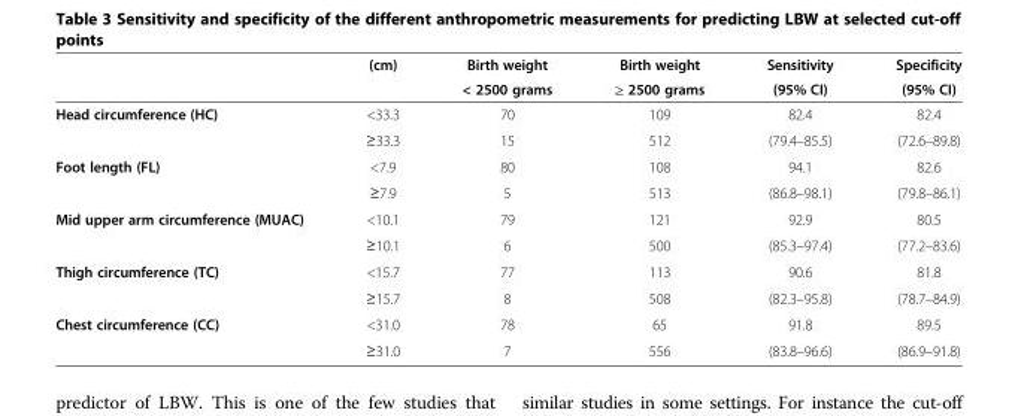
<table><thead><tr><td rowspan="2"></td><td rowspan="2">(cm)</td><td rowspan="2">Birth weight &lt; 2500 grams</td><td rowspan="2">Birth weight ≥ 2500 grams</td><td rowspan="2">Sensitivity (95% CI)</td><td rowspan="2">Specificity (95% CI)</td></tr><tr></tr></thead><tbody><tr><td rowspan="2">Head circumference (HC)</td><td>&lt;33.3</td><td>70</td><td>109</td><td>82.4</td><td>82.4</td></tr><tr><td>≥33.3</td><td>15</td><td>512</td><td>(79.4–85.5)</td><td>(72.6–89.8)</td></tr><tr><td rowspan="2">Foot length (FL)</td><td>&lt;7.9</td><td>80</td><td>108</td><td>94.1</td><td>82.6</td></tr><tr><td>≥7.9</td><td>5</td><td>513</td><td>(86.8–98.1)</td><td>(79.8–86.1)</td></tr><tr><td rowspan="2">Mid upper arm circumference (MUAC)</td><td>&lt;10.1</td><td>79</td><td>121</td><td>92.9</td><td>80.5</td></tr><tr><td>≥10.1</td><td>6</td><td>500</td><td>(85.3–97.4)</td><td>(77.2–83.6)</td></tr><tr><td rowspan="2">Thigh circumference (TC)</td><td>&lt;15.7</td><td>77</td><td>113</td><td>90.6</td><td>81.8</td></tr><tr><td>≥15.7</td><td>8</td><td>508</td><td>(82.3–95.8)</td><td>(78.7–84.9)</td></tr><tr><td rowspan="2">Chest circumference (CC)</td><td>&lt;31.0</td><td>78</td><td>65</td><td>91.8</td><td>89.5</td></tr><tr><td>≥31.0</td><td>7</td><td>556</td><td>(83.8–96.6)</td><td>(86.9–91.8)</td></tr></tbody></table>